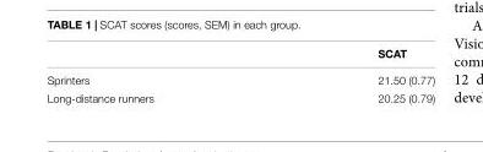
<table><thead><tr><td></td><td>SCAT</td></tr></thead><tbody><tr><td>Sprinters</td><td>21.50 (0.77)</td></tr><tr><td>Long-distance runners</td><td>20.25 (0.79)</td></tr></tbody></table>